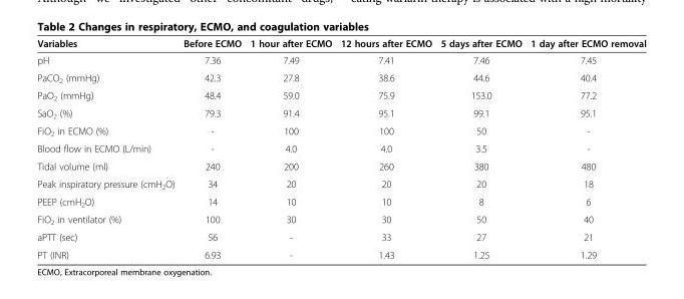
<table><thead><tr><td>Variables</td><td>Before ECMO</td><td>1 hour after ECMO</td><td>12 hours after ECMO</td><td>5 days after ECMO</td><td>1 day after ECMO removal</td></tr></thead><tbody><tr><td>pH</td><td>7.36</td><td>7.49</td><td>7.41</td><td>7.46</td><td>7.45</td></tr><tr><td>PaCO<sub>2</sub> (mmHg)</td><td>42.3</td><td>27.8</td><td>38.6</td><td>44.6</td><td>40.4</td></tr><tr><td>PaO<sub>2</sub> (mmHg)</td><td>48.4</td><td>59.0</td><td>75.9</td><td>153.0</td><td>77.2</td></tr><tr><td>SaO<sub>2</sub> (%)</td><td>79.3</td><td>91.4</td><td>95.1</td><td>99.1</td><td>95.1</td></tr><tr><td>FiO<sub>2</sub> in ECMO (%)</td><td>-</td><td>100</td><td>100</td><td>50</td><td>-</td></tr><tr><td>Blood flow in ECMO (L/min)</td><td>-</td><td>4.0</td><td>4.0</td><td>3.5</td><td>-</td></tr><tr><td>Tidal volume (ml)</td><td>240</td><td>200</td><td>260</td><td>380</td><td>480</td></tr><tr><td>Peak inspiratory pressure (cmH<sub>2</sub>O)</td><td>34</td><td>20</td><td>20</td><td>20</td><td>18</td></tr><tr><td>PEEP (cmH<sub>2</sub>O)</td><td>14</td><td>10</td><td>10</td><td>8</td><td>6</td></tr><tr><td>FiO<sub>2</sub> in ventilator (%)</td><td>100</td><td>30</td><td>30</td><td>50</td><td>40</td></tr><tr><td>aPTT (sec)</td><td>56</td><td>-</td><td>33</td><td>27</td><td>21</td></tr><tr><td>PT (INR)</td><td>6.93</td><td>-</td><td>1.43</td><td>1.25</td><td>1.29</td></tr></tbody></table>